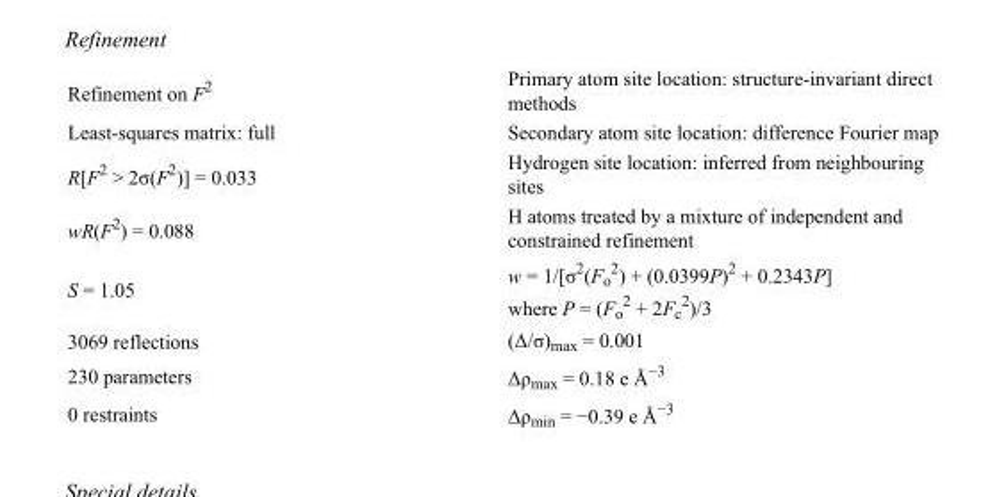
<table><tbody><tr><td>Refinement on F<sup>2</sup></td><td>Primary atom site location: structure-invariant direct methods</td></tr><tr><td>Least-squares matrix: full</td><td>Secondary atom site location: difference Fourier map</td></tr><tr><td>R[F<sup>2</sup> &gt; 2σ(F<sup>2</sup>)] = 0.033</td><td>Hydrogen site location: inferred from neighbouring sites</td></tr><tr><td>wR(F<sup>2</sup>) = 0.088</td><td>H atoms treated by a mixture of independent and constrained refinement</td></tr><tr><td>S = 1.05</td><td>w = 1/[σ<sup>2</sup>(F<sub>o</sub> <sup>2</sup>) + (0.0399P)<sup>2</sup> + 0.2343P] where P = (F<sub>o</sub> <sup>2</sup> + 2F<sub>c</sub> <sup>2</sup>)/3</td></tr><tr><td>3069 reflections</td><td>(Δ/σ)<sub>max</sub> = 0.001</td></tr><tr><td>230 parameters</td><td>Δρ<sub>max</sub> = 0.18 e Å<sup>−3</sup></td></tr><tr><td>0 restraints</td><td>Δρ<sub>min</sub> = −0.39 e Å<sup>−3</sup></td></tr></tbody></table>